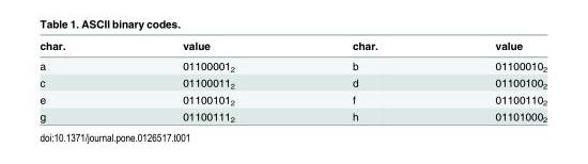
<table><thead><tr><td>char.</td><td>value</td><td>char.</td><td>value</td></tr></thead><tbody><tr><td>a</td><td>01100001<sub>2</sub></td><td>b</td><td>01100010<sub>2</sub></td></tr><tr><td>c</td><td>01100011<sub>2</sub></td><td>d</td><td>01100100<sub>2</sub></td></tr><tr><td>e</td><td>01100101<sub>2</sub></td><td>f</td><td>01100110<sub>2</sub></td></tr><tr><td>g</td><td>01100111<sub>2</sub></td><td>h</td><td>01101000<sub>2</sub></td></tr></tbody></table>